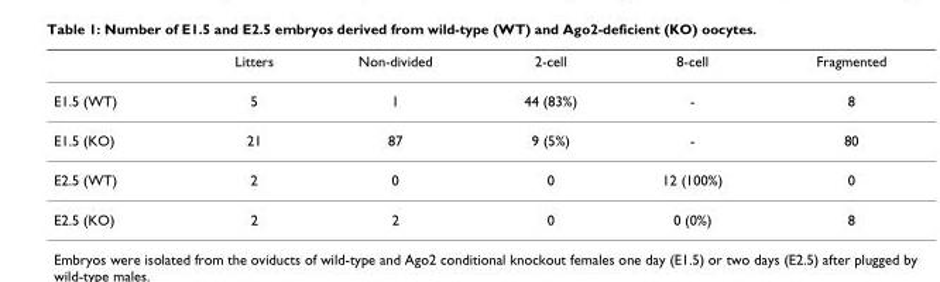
<table><thead><tr><td></td><td>Litters</td><td>Non-divided</td><td>2-cell</td><td>8-cell</td><td>Fragmented</td></tr></thead><tbody><tr><td>E1.5 (WT)</td><td>5</td><td>1</td><td>44 (83%)</td><td>-</td><td>8</td></tr><tr><td>E1.5 (KO)</td><td>21</td><td>87</td><td>9 (5%)</td><td>-</td><td>80</td></tr><tr><td>E2.5 (WT)</td><td>2</td><td>0</td><td>0</td><td>12 (100%)</td><td>0</td></tr><tr><td>E2.5 (KO)</td><td>2</td><td>2</td><td>0</td><td>0 (0%)</td><td>8</td></tr></tbody></table>